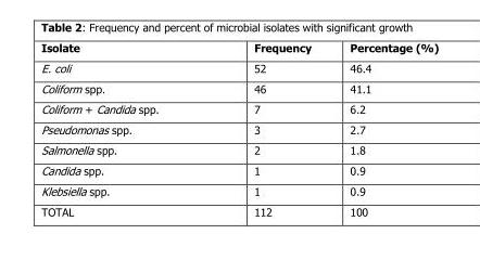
<table><thead><tr><td>Isolate</td><td>Frequency</td><td>Percentage (%)</td></tr></thead><tbody><tr><td>E. coli</td><td>52</td><td>46.4</td></tr><tr><td>Coliform spp.</td><td>46</td><td>41.1</td></tr><tr><td>Coliform + Candida spp.</td><td>7</td><td>6.2</td></tr><tr><td>Pseudomonas spp.</td><td>3</td><td>2.7</td></tr><tr><td>Salmonella spp.</td><td>2</td><td>1.8</td></tr><tr><td>Candida spp.</td><td>1</td><td>0.9</td></tr><tr><td>Klebsiella spp.</td><td>1</td><td>0.9</td></tr><tr><td>TOTAL</td><td>112</td><td>100</td></tr></tbody></table>